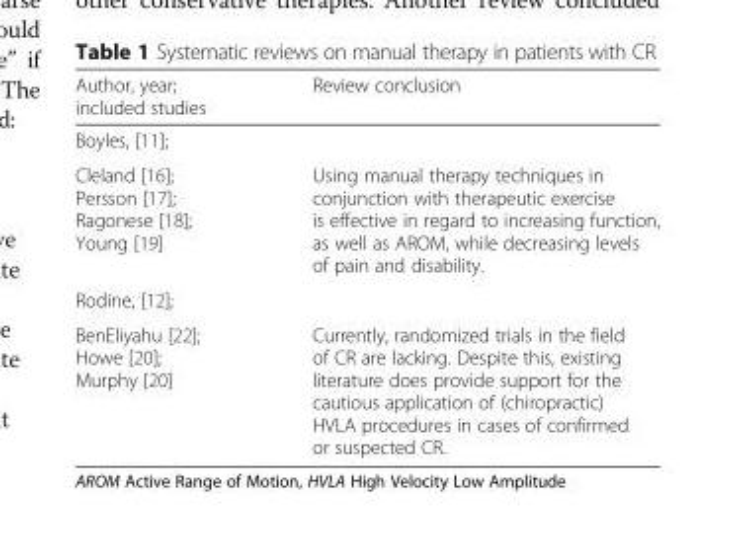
<table><thead><tr><td>Author, year; included studies</td><td>Review conclusion</td></tr></thead><tbody><tr><td colspan="2">Boyles, [11];</td></tr><tr><td>Cleland [16]; Persson [17]; Ragonese [18]; Young [19]</td><td>Using manual therapy techniques in conjunction with therapeutic exercise is effective in regard to increasing function, as well as AROM, while decreasing levels of pain and disability.</td></tr><tr><td colspan="2">Rodine, [12];</td></tr><tr><td>BenEliyahu [22]; Howe [20]; Murphy [20]</td><td>Currently, randomized trials in the field of CR are lacking. Despite this, existing literature does provide support for the cautious application of (chiropractic) HVLA procedures in cases of confirmed or suspected CR.</td></tr></tbody></table>